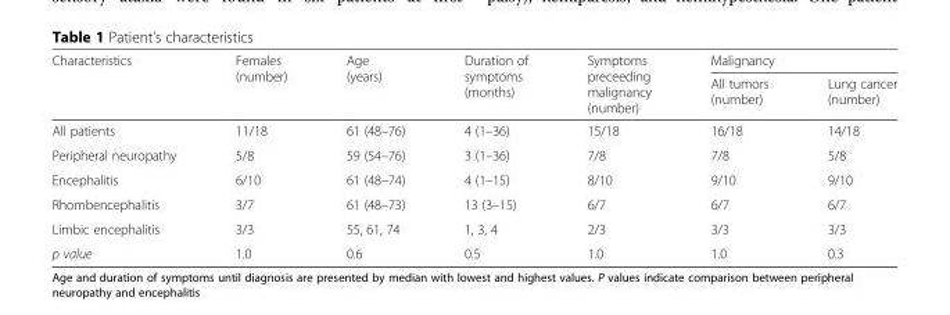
<table><thead><tr><td rowspan="2">Characteristics</td><td rowspan="2">Females (number)</td><td rowspan="2">Age (years)</td><td rowspan="2">Duration of symptoms (months)</td><td rowspan="2">Symptoms preceeding malignancy (number)</td><td colspan="2">Malignancy</td></tr><tr><td>All tumors (number)</td><td>Lung cancer (number)</td></tr></thead><tbody><tr><td>All patients</td><td>11/18</td><td>61 (48–76)</td><td>4 (1–36)</td><td>15/18</td><td>16/18</td><td>14/18</td></tr><tr><td>Peripheral neuropathy</td><td>5/8</td><td>59 (54–76)</td><td>3 (1–36)</td><td>7/8</td><td>7/8</td><td>5/8</td></tr><tr><td>Encephalitis</td><td>6/10</td><td>61 (48–74)</td><td>4 (1–15)</td><td>8/10</td><td>9/10</td><td>9/10</td></tr><tr><td>Rhombencephalitis</td><td>3/7</td><td>61 (48–73)</td><td>13 (3–15)</td><td>6/7</td><td>6/7</td><td>6/7</td></tr><tr><td>Limbic encephalitis</td><td>3/3</td><td>55, 61, 74</td><td>1, 3, 4</td><td>2/3</td><td>3/3</td><td>3/3</td></tr><tr><td>p value</td><td>1.0</td><td>0.6</td><td>0.5</td><td>1.0</td><td>1.0</td><td>0.3</td></tr></tbody></table>